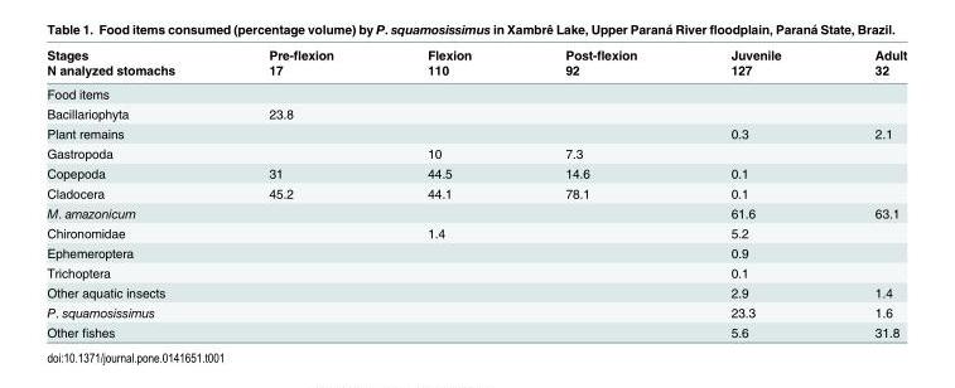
<table><thead><tr><td rowspan="2">Stages N analyzed stomachs</td><td rowspan="2">Pre-flexion 17</td><td rowspan="2">Flexion 110</td><td rowspan="2">Post-flexion 92</td><td rowspan="2">Juvenile 127</td><td rowspan="2">Adult 32</td></tr><tr></tr></thead><tbody><tr><td colspan="6">Food items</td></tr><tr><td>Bacillariophyta</td><td>23.8</td><td></td><td></td><td></td><td></td></tr><tr><td colspan="2">Plant remains</td><td></td><td></td><td>0.3</td><td>2.1</td></tr><tr><td colspan="2">Gastropoda</td><td>10</td><td>7.3</td><td></td><td></td></tr><tr><td>Copepoda</td><td>31</td><td>44.5</td><td>14.6</td><td>0.1</td><td></td></tr><tr><td>Cladocera</td><td>45.2</td><td>44.1</td><td>78.1</td><td>0.1</td><td></td></tr><tr><td colspan="2">M. amazonicum</td><td></td><td></td><td>61.6</td><td>63.1</td></tr><tr><td colspan="2">Chironomidae</td><td>1.4</td><td></td><td>5.2</td><td></td></tr><tr><td colspan="2">Ephemeroptera</td><td></td><td></td><td>0.9</td><td></td></tr><tr><td colspan="2">Trichoptera</td><td></td><td></td><td>0.1</td><td></td></tr><tr><td colspan="3">Other aquatic insects</td><td></td><td>2.9</td><td>1.4</td></tr><tr><td colspan="2">P. squamosissimus</td><td></td><td></td><td>23.3</td><td>1.6</td></tr><tr><td>Other fishes</td><td></td><td></td><td></td><td>5.6</td><td>31.8</td></tr></tbody></table>